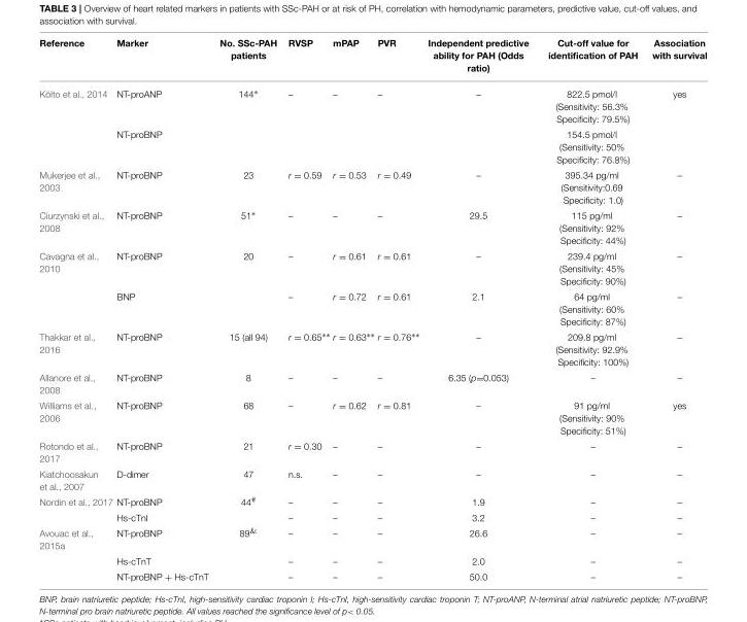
<table><thead><tr><td>Reference</td><td>Marker</td><td>No. SSc-PAH patients</td><td>RVSP</td><td>mPAP</td><td>PVR</td><td>Independent predictive ability for PAH (Odds ratio)</td><td>Cut-off value for identification of PAH</td><td>Association with survival</td></tr></thead><tbody><tr><td rowspan="2">Költo et al., 2014</td><td>NT-proANP</td><td>144∗</td><td>–</td><td>–</td><td>–</td><td>–</td><td>822.5 pmol/l (Sensitivity: 56.3% Specificity: 79.5%)</td><td>yes</td></tr><tr><td>NT-proBNP</td><td></td><td></td><td></td><td></td><td></td><td>154.5 pmol/l (Sensitivity: 50% Specificity: 76.8%)</td><td></td></tr><tr><td>Mukerjee et al., 2003</td><td>NT-proBNP</td><td>23</td><td>r = 0.59</td><td>r = 0.53</td><td>r = 0.49</td><td>–</td><td>395.34 pg/ml (Sensitivity:0.69 Specificity: 1.0)</td><td>–</td></tr><tr><td>Ciurzynski et al., 2008</td><td>NT-proBNP</td><td>51∗</td><td>–</td><td>–</td><td>–</td><td>29.5</td><td>115 pg/ml (Sensitivity: 92% Specificity: 44%)</td><td>–</td></tr><tr><td rowspan="2">Cavagna et al., 2010</td><td>NT-proBNP</td><td>20</td><td>–</td><td>r = 0.61</td><td>r = 0.61</td><td>–</td><td>239.4 pg/ml (Sensitivity: 45% Specificity: 90%)</td><td>–</td></tr><tr><td>BNP</td><td></td><td>–</td><td>r = 0.72</td><td>r = 0.61</td><td>2.1</td><td>64 pg/ml (Sensitivity: 60% Specificity: 87%)</td><td>–</td></tr><tr><td>Thakkar et al., 2016</td><td>NT-proBNP</td><td>15 (all 94)</td><td>r = 0.65∗∗</td><td>r = 0.63∗∗</td><td>r = 0.76∗∗</td><td>–</td><td>209.8 pg/ml (Sensitivity: 92.9% Specificity: 100%)</td><td>–</td></tr><tr><td>Allanore et al., 2008</td><td>NT-proBNP</td><td>8</td><td>–</td><td>–</td><td>–</td><td>6.35 (p=0.053)</td><td>–</td><td>–</td></tr><tr><td>Williams et al., 2006</td><td>NT-proBNP</td><td>68</td><td>–</td><td>r = 0.62</td><td>r = 0.81</td><td>–</td><td>91 pg/ml (Sensitivity: 90% Specificity: 51%)</td><td>yes</td></tr><tr><td>Rotondo et al., 2017</td><td>NT-proBNP</td><td>21</td><td>r = 0.30</td><td>–</td><td>–</td><td>–</td><td>–</td><td>–</td></tr><tr><td>Kiatchoosakun et al., 2007</td><td>D-dimer</td><td>47</td><td>n.s.</td><td>–</td><td>–</td><td>–</td><td>–</td><td>–</td></tr><tr><td rowspan="2">Nordin et al., 2017</td><td>NT-proBNP</td><td>44<sup>#</sup></td><td>–</td><td>–</td><td>–</td><td>1.9</td><td>–</td><td>–</td></tr><tr><td>Hs-cTnI</td><td></td><td>–</td><td>–</td><td>–</td><td>3.2</td><td>–</td><td>–</td></tr><tr><td rowspan="3">Avouac et al., 2015a</td><td>NT-proBNP</td><td>89<sup>&amp;</sup></td><td>–</td><td>–</td><td>–</td><td>26.6</td><td>–</td><td>–</td></tr><tr><td>Hs-cTnT</td><td></td><td>–</td><td>–</td><td>–</td><td>2.0</td><td>–</td><td>–</td></tr><tr><td>NT-proBNP + Hs-cTnT</td><td></td><td>–</td><td>–</td><td>–</td><td>50.0</td><td>–</td><td>–</td></tr></tbody></table>